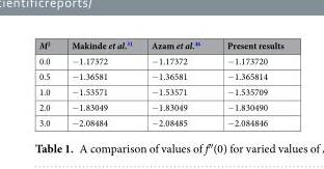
<table><thead><tr><td>M<sup>2</sup></td><td>Makinde et al.<sup>31</sup></td><td>Azam et al.<sup>46</sup></td><td>Present results</td></tr></thead><tbody><tr><td>0.0</td><td>−1.17372</td><td>−1.17372</td><td>−1.173720</td></tr><tr><td>0.5</td><td>−1.36581</td><td>−1.36581</td><td>−1.365814</td></tr><tr><td>1.0</td><td>−1.53571</td><td>−1.53571</td><td>−1.535709</td></tr><tr><td>2.0</td><td>−1.83049</td><td>−1.83049</td><td>−1.830490</td></tr><tr><td>3.0</td><td>−2.08484</td><td>−2.08485</td><td>−2.084846</td></tr></tbody></table>